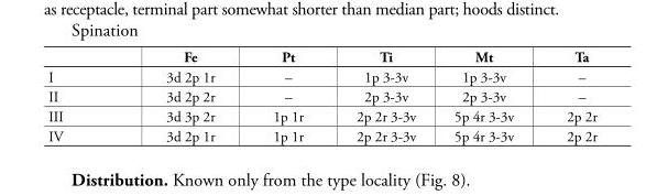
<table><thead><tr><td></td><td>Fe</td><td>Pt</td><td>Ti</td><td>Mt</td><td>Ta</td></tr></thead><tbody><tr><td>I</td><td>3d 2p 1r</td><td>–</td><td>1p 3-3v</td><td>1p 3-3v</td><td>–</td></tr><tr><td>II</td><td>3d 2p 2r</td><td>–</td><td>2p 3-3v</td><td>2p 3-3v</td><td>–</td></tr><tr><td>III</td><td>3d 3p 2r</td><td>1p 1r</td><td>2p 2r 3-3v</td><td>5p 4r 3-3v</td><td>2p 2r</td></tr><tr><td>IV</td><td>3d 2p 1r</td><td>1p 1r</td><td>2p 2r 3-3v</td><td>5p 4r 3-3v</td><td>2p 2r</td></tr></tbody></table>